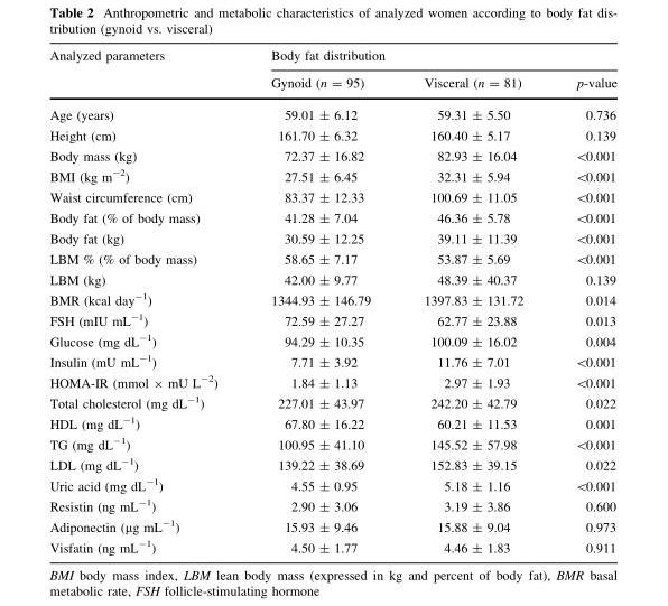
<table><thead><tr><td rowspan="2">Analyzed parameters</td><td colspan="3">Body fat distribution</td></tr><tr><td>Gynoid (n = 95)</td><td>Visceral (n = 81)</td><td>p-value</td></tr></thead><tbody><tr><td>Age (years)</td><td>59.01 ± 6.12</td><td>59.31 ± 5.50</td><td>0.736</td></tr><tr><td>Height (cm)</td><td>161.70 ± 6.32</td><td>160.40 ± 5.17</td><td>0.139</td></tr><tr><td>Body mass (kg)</td><td>72.37 ± 16.82</td><td>82.93 ± 16.04</td><td>&lt;0.001</td></tr><tr><td>BMI (kg m<sup>-2</sup>)</td><td>27.51 ± 6.45</td><td>32.31 ± 5.94</td><td>&lt;0.001</td></tr><tr><td>Waist circumference (cm)</td><td>83.37 ± 12.33</td><td>100.69 ± 11.05</td><td>&lt;0.001</td></tr><tr><td>Body fat (% of body mass)</td><td>41.28 ± 7.04</td><td>46.36 ± 5.78</td><td>&lt;0.001</td></tr><tr><td>Body fat (kg)</td><td>30.59 ± 12.25</td><td>39.11 ± 11.39</td><td>&lt;0.001</td></tr><tr><td>LBM % (% of body mass)</td><td>58.65 ± 7.17</td><td>53.87 ± 5.69</td><td>&lt;0.001</td></tr><tr><td>LBM (kg)</td><td>42.00 ± 9.77</td><td>48.39 ± 40.37</td><td>0.139</td></tr><tr><td>BMR (kcal day<sup>-1</sup>)</td><td>1344.93 ± 146.79</td><td>1397.83 ± 131.72</td><td>0.014</td></tr><tr><td>FSH (mIU mL<sup>-1</sup>)</td><td>72.59 ± 27.27</td><td>62.77 ± 23.88</td><td>0.013</td></tr><tr><td>Glucose (mg dL<sup>-1</sup>)</td><td>94.29 ± 10.35</td><td>100.09 ± 16.02</td><td>0.004</td></tr><tr><td>Insulin (mU mL<sup>-1</sup>)</td><td>7.71 ± 3.92</td><td>11.76 ± 7.01</td><td>&lt;0.001</td></tr><tr><td>HOMA-IR (mmol × mU L<sup>-2</sup>)</td><td>1.84 ± 1.13</td><td>2.97 ± 1.93</td><td>&lt;0.001</td></tr><tr><td>Total cholesterol (mg dL<sup>-1</sup>)</td><td>227.01 ± 43.97</td><td>242.20 ± 42.79</td><td>0.022</td></tr><tr><td>HDL (mg dL<sup>-1</sup>)</td><td>67.80 ± 16.22</td><td>60.21 ± 11.53</td><td>0.001</td></tr><tr><td>TG (mg dL<sup>-1</sup>)</td><td>100.95 ± 41.10</td><td>145.52 ± 57.98</td><td>&lt;0.001</td></tr><tr><td>LDL (mg dL<sup>-1</sup>)</td><td>139.22 ± 38.69</td><td>152.83 ± 39.15</td><td>0.022</td></tr><tr><td>Uric acid (mg dL<sup>-1</sup>)</td><td>4.55 ± 0.95</td><td>5.18 ± 1.16</td><td>&lt;0.001</td></tr><tr><td>Resistin (ng mL<sup>-1</sup>)</td><td>2.90 ± 3.06</td><td>3.19 ± 3.86</td><td>0.600</td></tr><tr><td>Adiponectin (µg mL<sup>-1</sup>)</td><td>15.93 ± 9.46</td><td>15.88 ± 9.04</td><td>0.973</td></tr><tr><td>Visfatin (ng mL<sup>-1</sup>)</td><td>4.50 ± 1.77</td><td>4.46 ± 1.83</td><td>0.911</td></tr></tbody></table>